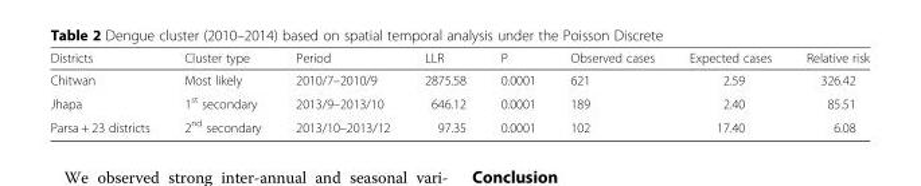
<table><thead><tr><td>Districts</td><td>Cluster type</td><td>Period</td><td>LLR</td><td>P</td><td>Observed cases</td><td>Expected cases</td><td>Relative risk</td></tr></thead><tbody><tr><td>Chitwan</td><td>Most likely</td><td>2010/7–2010/9</td><td>2875.58</td><td>0.0001</td><td>621</td><td>2.59</td><td>326.42</td></tr><tr><td>Jhapa</td><td>1<sup>st</sup> secondary</td><td>2013/9–2013/10</td><td>646.12</td><td>0.0001</td><td>189</td><td>2.40</td><td>85.51</td></tr><tr><td>Parsa + 23 districts</td><td>2<sup>nd</sup> secondary</td><td>2013/10–2013/12</td><td>97.35</td><td>0.0001</td><td>102</td><td>17.40</td><td>6.08</td></tr></tbody></table>